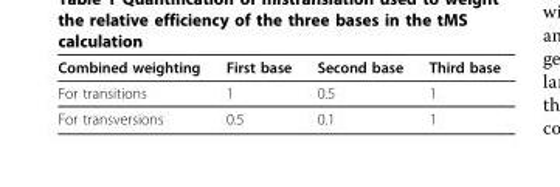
<table><thead><tr><td>Combined weighting</td><td>First base</td><td>Second base</td><td>Third base</td></tr></thead><tbody><tr><td>For transitions</td><td>1</td><td>0.5</td><td>1</td></tr><tr><td>For transversions</td><td>0.5</td><td>0.1</td><td>1</td></tr></tbody></table>